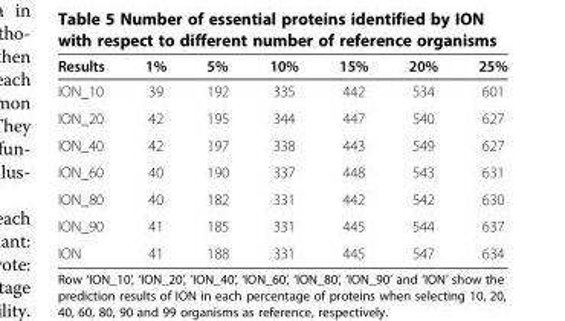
<table><thead><tr><td>Results</td><td>1%</td><td>5%</td><td>10%</td><td>15%</td><td>20%</td><td>25%</td></tr></thead><tbody><tr><td>ION_10</td><td>39</td><td>192</td><td>335</td><td>442</td><td>534</td><td>601</td></tr><tr><td>ION_20</td><td>42</td><td>195</td><td>344</td><td>447</td><td>540</td><td>627</td></tr><tr><td>ION_40</td><td>42</td><td>197</td><td>338</td><td>443</td><td>549</td><td>627</td></tr><tr><td>ION_60</td><td>40</td><td>190</td><td>337</td><td>448</td><td>543</td><td>631</td></tr><tr><td>ION_80</td><td>40</td><td>182</td><td>331</td><td>442</td><td>542</td><td>630</td></tr><tr><td>ION_90</td><td>41</td><td>185</td><td>331</td><td>445</td><td>544</td><td>637</td></tr><tr><td>ION</td><td>41</td><td>188</td><td>331</td><td>445</td><td>547</td><td>634</td></tr></tbody></table>